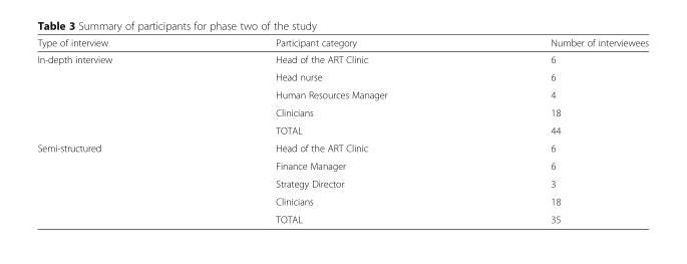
<table><thead><tr><td>Type of interview</td><td>Participant category</td><td>Number of interviewees</td></tr></thead><tbody><tr><td rowspan="5">In-depth interview</td><td>Head of the ART Clinic</td><td>6</td></tr><tr><td>Head nurse</td><td>6</td></tr><tr><td>Human Resources Manager</td><td>4</td></tr><tr><td>Clinicians</td><td>18</td></tr><tr><td>TOTAL</td><td>44</td></tr><tr><td rowspan="5">Semi-structured</td><td>Head of the ART Clinic</td><td>6</td></tr><tr><td>Finance Manager</td><td>6</td></tr><tr><td>Strategy Director</td><td>3</td></tr><tr><td>Clinicians</td><td>18</td></tr><tr><td>TOTAL</td><td>35</td></tr></tbody></table>